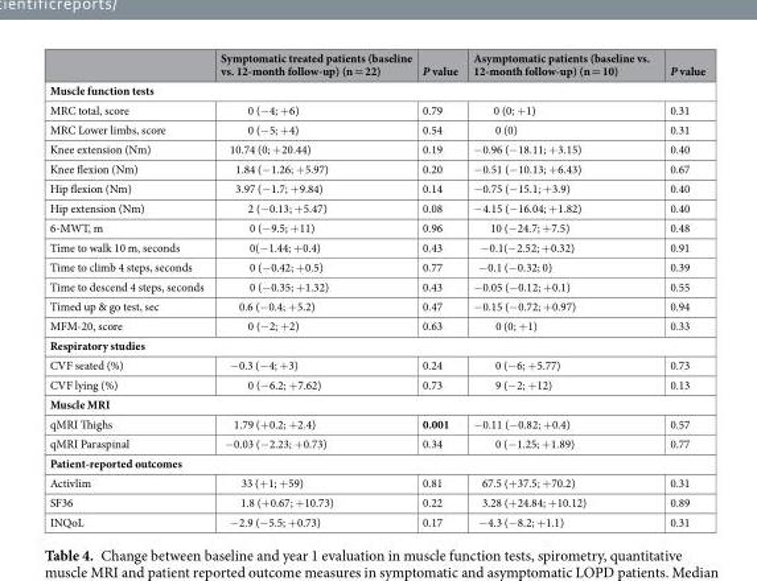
<table><thead><tr><td></td><td>Symptomatic treated patients (baseline vs. 12-month follow-up) (n = 22)</td><td>P value</td><td>Asymptomatic patients (baseline vs. 12-month follow-up) (n = 10)</td><td>P value</td></tr></thead><tbody><tr><td colspan="5">Muscle function tests</td></tr><tr><td>MRC total, score</td><td>0 (−4; +6)</td><td>0.79</td><td>0 (0; +1)</td><td>0.31</td></tr><tr><td>MRC Lower limbs, score</td><td>0 (−5; +4)</td><td>0.54</td><td>0 (0)</td><td>0.31</td></tr><tr><td>Knee extension (Nm)</td><td>10.74 (0; +20.44)</td><td>0.19</td><td>−0.96 (−18.11; +3.15)</td><td>0.40</td></tr><tr><td>Knee flexion (Nm)</td><td>1.84 (−1.26; +5.97)</td><td>0.20</td><td>−0.51 (−10.13; +6.43)</td><td>0.67</td></tr><tr><td>Hip flexion (Nm)</td><td>3.97 (−1.7; +9.84)</td><td>0.14</td><td>−0.75 (−15.1; +3.9)</td><td>0.40</td></tr><tr><td>Hip extension (Nm)</td><td>2 (−0.13; +5.47)</td><td>0.08</td><td>−4.15 (−16.04; +1.82)</td><td>0.40</td></tr><tr><td>6-MWT, m</td><td>0 (−9.5; +11)</td><td>0.96</td><td>10 (−24.7; +7.5)</td><td>0.48</td></tr><tr><td>Time to walk 10 m, seconds</td><td>0(−1.44; +0.4)</td><td>0.43</td><td>−0.1(−2.52; +0.32)</td><td>0.91</td></tr><tr><td>Time to climb 4 steps, seconds</td><td>0 (−0.42; +0.5)</td><td>0.77</td><td>−0.1 (−0.32; 0)</td><td>0.39</td></tr><tr><td>Time to descend 4 steps, seconds</td><td>0 (−0.35; +1.32)</td><td>0.43</td><td>−0.05 (−0.12; +0.1)</td><td>0.55</td></tr><tr><td>Timed up &amp; go test, sec</td><td>0.6 (−0.4; +5.2)</td><td>0.47</td><td>−0.15 (−0.72; +0.97)</td><td>0.94</td></tr><tr><td>MFM-20, score</td><td>0 (−2; +2)</td><td>0.63</td><td>0 (0; +1)</td><td>0.33</td></tr><tr><td colspan="5">Respiratory studies</td></tr><tr><td>CVF seated (%)</td><td>−0.3 (−4; +3)</td><td>0.24</td><td>0 (−6; +5.77)</td><td>0.73</td></tr><tr><td>CVF lying (%)</td><td>0 (−6.2; +7.62)</td><td>0.73</td><td>9 (−2; +12)</td><td>0.13</td></tr><tr><td colspan="5">Muscle MRI</td></tr><tr><td>qMRI Thighs</td><td>1.79 (+0.2; +2.4)</td><td>0.001</td><td>−0.11 (−0.82; +0.4)</td><td>0.57</td></tr><tr><td>qMRI Paraspinal</td><td>−0.03 (−2.23; +0.73)</td><td>0.34</td><td>0 (−1.25; +1.89)</td><td>0.77</td></tr><tr><td colspan="5">Patient-reported outcomes</td></tr><tr><td>Activlim</td><td>33 (+1; +59)</td><td>0.81</td><td>67.5 (+37.5; +70.2)</td><td>0.31</td></tr><tr><td>SF36</td><td>1.8 (+0.67; +10.73)</td><td>0.22</td><td>3.28 (+24.84; +10.12)</td><td>0.89</td></tr><tr><td>INQoL</td><td>−2.9 (−5.5; +0.73)</td><td>0.17</td><td>−4.3 (−8.2; +1.1)</td><td>0.31</td></tr></tbody></table>